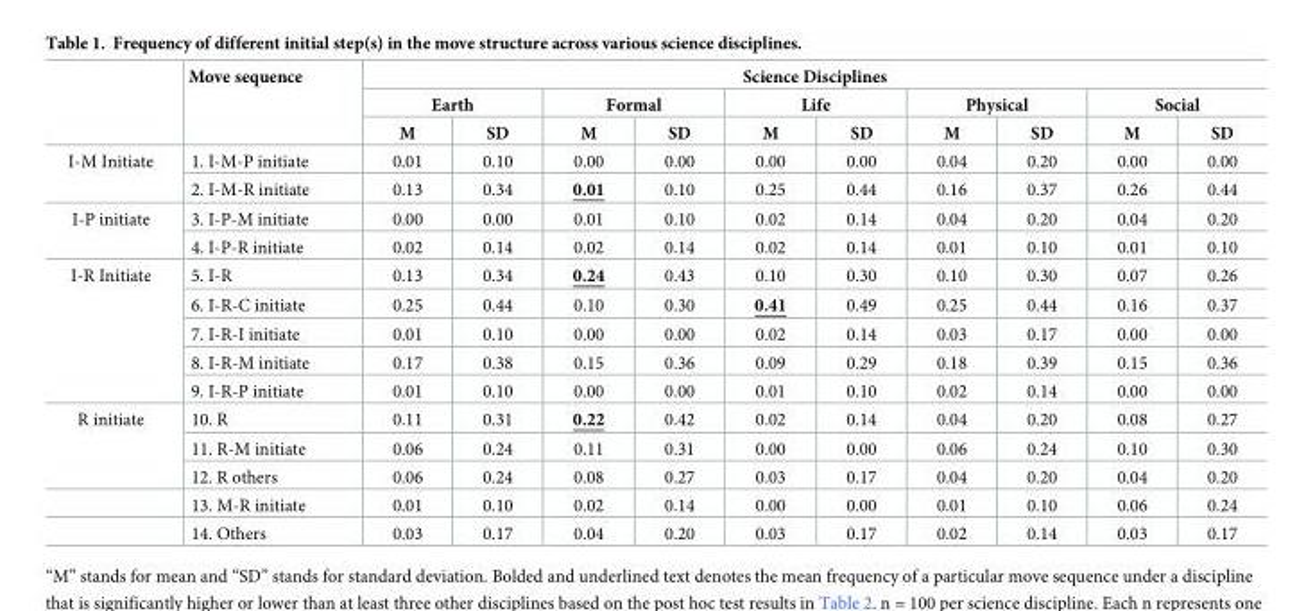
<table><thead><tr><td rowspan="3"></td><td rowspan="3">Move sequence</td><td colspan="10">Science Disciplines</td></tr><tr><td colspan="2">Earth</td><td colspan="2">Formal</td><td colspan="2">Life</td><td colspan="2">Physical</td><td colspan="2">Social</td></tr><tr><td>M</td><td>SD</td><td>M</td><td>SD</td><td>M</td><td>SD</td><td>M</td><td>SD</td><td>M</td><td>SD</td></tr></thead><tbody><tr><td rowspan="2">I-M Initiate</td><td>1. I-M-P initiate</td><td>0.01</td><td>0.10</td><td>0.00</td><td>0.00</td><td>0.00</td><td>0.00</td><td>0.04</td><td>0.20</td><td>0.00</td><td>0.00</td></tr><tr><td>2. I-M-R initiate</td><td>0.13</td><td>0.34</td><td>0.01</td><td>0.10</td><td>0.25</td><td>0.44</td><td>0.16</td><td>0.37</td><td>0.26</td><td>0.44</td></tr><tr><td rowspan="2">I-P initiate</td><td>3. I-P-M initiate</td><td>0.00</td><td>0.00</td><td>0.01</td><td>0.10</td><td>0.02</td><td>0.14</td><td>0.04</td><td>0.20</td><td>0.04</td><td>0.20</td></tr><tr><td>4. I-P-R initiate</td><td>0.02</td><td>0.14</td><td>0.02</td><td>0.14</td><td>0.02</td><td>0.14</td><td>0.01</td><td>0.10</td><td>0.01</td><td>0.10</td></tr><tr><td rowspan="5">I-R Initiate</td><td>5. I-R</td><td>0.13</td><td>0.34</td><td>0.24</td><td>0.43</td><td>0.10</td><td>0.30</td><td>0.10</td><td>0.30</td><td>0.07</td><td>0.26</td></tr><tr><td>6. I-R-C initiate</td><td>0.25</td><td>0.44</td><td>0.10</td><td>0.30</td><td>0.41</td><td>0.49</td><td>0.25</td><td>0.44</td><td>0.16</td><td>0.37</td></tr><tr><td>7. I-R-I initiate</td><td>0.01</td><td>0.10</td><td>0.00</td><td>0.00</td><td>0.02</td><td>0.14</td><td>0.03</td><td>0.17</td><td>0.00</td><td>0.00</td></tr><tr><td>8. I-R-M initiate</td><td>0.17</td><td>0.38</td><td>0.15</td><td>0.36</td><td>0.09</td><td>0.29</td><td>0.18</td><td>0.39</td><td>0.15</td><td>0.36</td></tr><tr><td>9. I-R-P initiate</td><td>0.01</td><td>0.10</td><td>0.00</td><td>0.00</td><td>0.01</td><td>0.10</td><td>0.02</td><td>0.14</td><td>0.00</td><td>0.00</td></tr><tr><td rowspan="5">R initiate</td><td>10. R</td><td>0.11</td><td>0.31</td><td>0.22</td><td>0.42</td><td>0.02</td><td>0.14</td><td>0.04</td><td>0.20</td><td>0.08</td><td>0.27</td></tr><tr><td>11. R-M initiate</td><td>0.06</td><td>0.24</td><td>0.11</td><td>0.31</td><td>0.00</td><td>0.00</td><td>0.06</td><td>0.24</td><td>0.10</td><td>0.30</td></tr><tr><td>12. R others</td><td>0.06</td><td>0.24</td><td>0.08</td><td>0.27</td><td>0.03</td><td>0.17</td><td>0.04</td><td>0.20</td><td>0.04</td><td>0.20</td></tr><tr><td>13. M-R initiate</td><td>0.01</td><td>0.10</td><td>0.02</td><td>0.14</td><td>0.00</td><td>0.00</td><td>0.01</td><td>0.10</td><td>0.06</td><td>0.24</td></tr><tr><td>14. Others</td><td>0.03</td><td>0.17</td><td>0.04</td><td>0.20</td><td>0.03</td><td>0.17</td><td>0.02</td><td>0.14</td><td>0.03</td><td>0.17</td></tr></tbody></table>